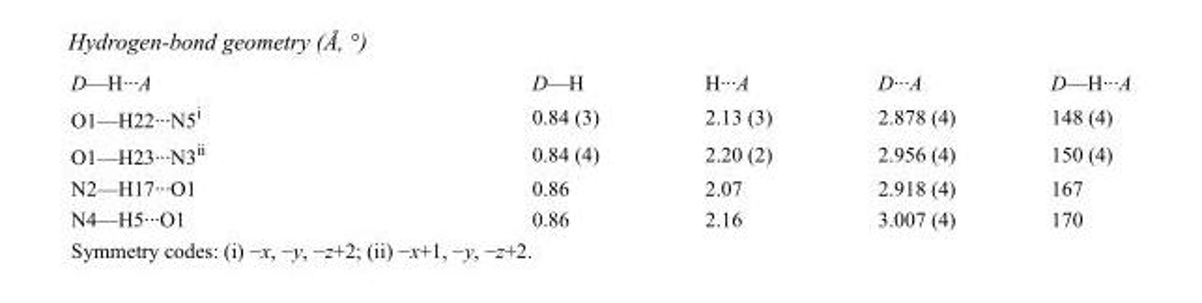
<table><tbody><tr><td>D—H···A</td><td>D—H</td><td>H···A</td><td>D···A</td><td>D—H···A</td></tr><tr><td>O1—H22···N5<sup>i</sup></td><td>0.84 (3)</td><td>2.13 (3)</td><td>2.878 (4)</td><td>148 (4)</td></tr><tr><td>O1—H23···N3<sup>ii</sup></td><td>0.84 (4)</td><td>2.20 (2)</td><td>2.956 (4)</td><td>150 (4)</td></tr><tr><td>N2—H17···O1</td><td>0.86</td><td>2.07</td><td>2.918 (4)</td><td>167</td></tr><tr><td>N4—H5···O1</td><td>0.86</td><td>2.16</td><td>3.007 (4)</td><td>170</td></tr></tbody></table>